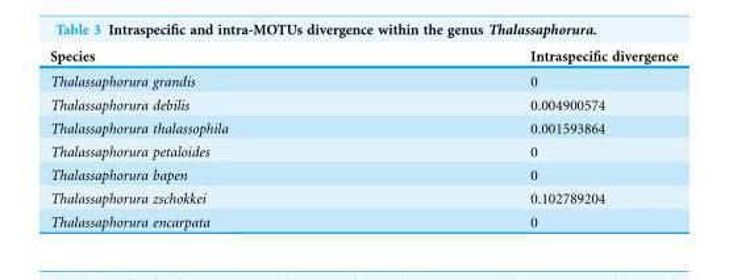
<table><thead><tr><td>Species</td><td>Intraspecific divergence</td></tr></thead><tbody><tr><td>Thalassaphorura grandis</td><td>0</td></tr><tr><td>Thalassaphorura debilis</td><td>0.004900574</td></tr><tr><td>Thalassaphorura thalassophila</td><td>0.001593864</td></tr><tr><td>Thalassaphorura petaloides</td><td>0</td></tr><tr><td>Thalassaphorura bapen</td><td>0</td></tr><tr><td>Thalassaphorura zschokkei</td><td>0.102789204</td></tr><tr><td>Thalassaphorura encarpata</td><td>0</td></tr></tbody></table>